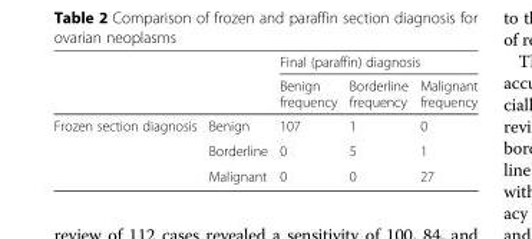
<table><thead><tr><td rowspan="2"></td><td rowspan="2"></td><td colspan="3">Final (paraffin) diagnosis</td></tr><tr><td>Benign frequency</td><td>Borderline frequency</td><td>Malignant frequency</td></tr></thead><tbody><tr><td rowspan="3">Frozen section diagnosis</td><td>Benign</td><td>107</td><td>1</td><td>0</td></tr><tr><td>Borderline</td><td>0</td><td>5</td><td>1</td></tr><tr><td>Malignant</td><td>0</td><td>0</td><td>27</td></tr></tbody></table>